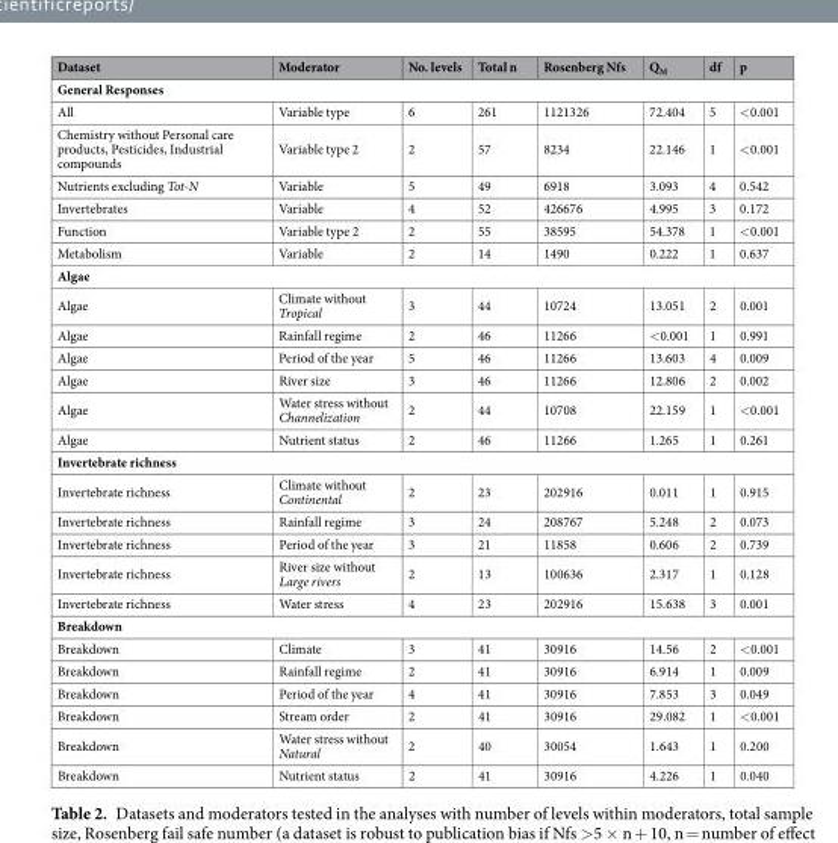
<table><thead><tr><td>Dataset</td><td>Moderator</td><td>No. levels</td><td>Total n</td><td>Rosenberg Nfs</td><td>Q<sub>M</sub></td><td>df</td><td>p</td></tr></thead><tbody><tr><td colspan="8">General Responses</td></tr><tr><td>All</td><td>Variable type</td><td>6</td><td>261</td><td>1121326</td><td>72.404</td><td>5</td><td>&lt;0.001</td></tr><tr><td>Chemistry without Personal care products, Pesticides, Industrial compounds</td><td>Variable type 2</td><td>2</td><td>57</td><td>8234</td><td>22.146</td><td>1</td><td>&lt;0.001</td></tr><tr><td>Nutrients excluding Tot-N</td><td>Variable</td><td>5</td><td>49</td><td>6918</td><td>3.093</td><td>4</td><td>0.542</td></tr><tr><td>Invertebrates</td><td>Variable</td><td>4</td><td>52</td><td>426676</td><td>4.995</td><td>3</td><td>0.172</td></tr><tr><td>Function</td><td>Variable type 2</td><td>2</td><td>55</td><td>38595</td><td>54.378</td><td>1</td><td>&lt;0.001</td></tr><tr><td>Metabolism</td><td>Variable</td><td>2</td><td>14</td><td>1490</td><td>0.222</td><td>1</td><td>0.637</td></tr><tr><td colspan="8">Algae</td></tr><tr><td>Algae</td><td>Climate without Tropical</td><td>3</td><td>44</td><td>10724</td><td>13.051</td><td>2</td><td>0.001</td></tr><tr><td>Algae</td><td>Rainfall regime</td><td>2</td><td>46</td><td>11266</td><td>&lt;0.001</td><td>1</td><td>0.991</td></tr><tr><td>Algae</td><td>Period of the year</td><td>5</td><td>46</td><td>11266</td><td>13.603</td><td>4</td><td>0.009</td></tr><tr><td>Algae</td><td>River size</td><td>3</td><td>46</td><td>11266</td><td>12.806</td><td>2</td><td>0.002</td></tr><tr><td>Algae</td><td>Water stress without Channelization</td><td>2</td><td>44</td><td>10708</td><td>22.159</td><td>1</td><td>&lt;0.001</td></tr><tr><td>Algae</td><td>Nutrient status</td><td>2</td><td>46</td><td>11266</td><td>1.265</td><td>1</td><td>0.261</td></tr><tr><td colspan="8">Invertebrate richness</td></tr><tr><td>Invertebrate richness</td><td>Climate without Continental</td><td>2</td><td>23</td><td>202916</td><td>0.011</td><td>1</td><td>0.915</td></tr><tr><td>Invertebrate richness</td><td>Rainfall regime</td><td>3</td><td>24</td><td>208767</td><td>5.248</td><td>2</td><td>0.073</td></tr><tr><td>Invertebrate richness</td><td>Period of the year</td><td>3</td><td>21</td><td>11858</td><td>0.606</td><td>2</td><td>0.739</td></tr><tr><td>Invertebrate richness</td><td>River size without Large rivers</td><td>2</td><td>13</td><td>100636</td><td>2.317</td><td>1</td><td>0.128</td></tr><tr><td>Invertebrate richness</td><td>Water stress</td><td>4</td><td>23</td><td>202916</td><td>15.638</td><td>3</td><td>0.001</td></tr><tr><td colspan="8">Breakdown</td></tr><tr><td>Breakdown</td><td>Climate</td><td>3</td><td>41</td><td>30916</td><td>14.56</td><td>2</td><td>&lt;0.001</td></tr><tr><td>Breakdown</td><td>Rainfall regime</td><td>2</td><td>41</td><td>30916</td><td>6.914</td><td>1</td><td>0.009</td></tr><tr><td>Breakdown</td><td>Period of the year</td><td>4</td><td>41</td><td>30916</td><td>7.853</td><td>3</td><td>0.049</td></tr><tr><td>Breakdown</td><td>Stream order</td><td>2</td><td>41</td><td>30916</td><td>29.082</td><td>1</td><td>&lt;0.001</td></tr><tr><td>Breakdown</td><td>Water stress without Natural</td><td>2</td><td>40</td><td>30054</td><td>1.643</td><td>1</td><td>0.200</td></tr><tr><td>Breakdown</td><td>Nutrient status</td><td>2</td><td>41</td><td>30916</td><td>4.226</td><td>1</td><td>0.040</td></tr></tbody></table>